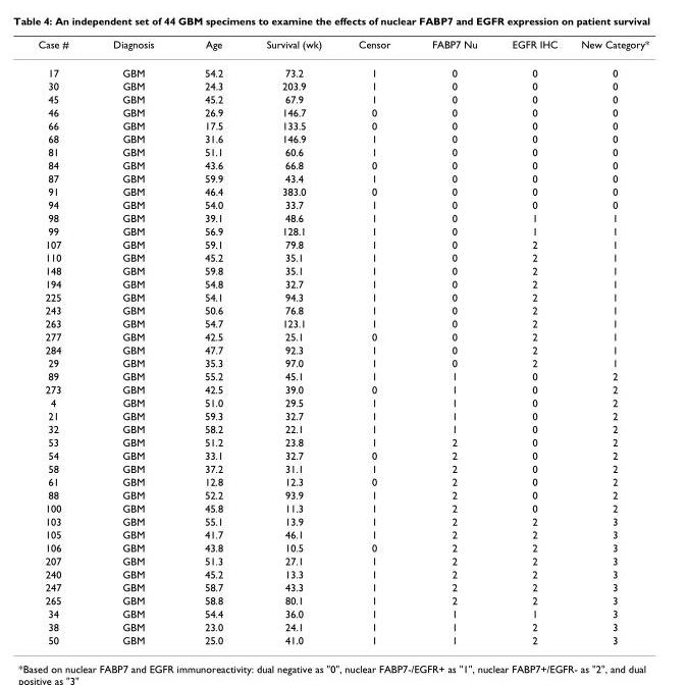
<table><thead><tr><td>Case #</td><td>Diagnosis</td><td>Age</td><td>Survival (wk)</td><td>Censor</td><td>FABP7 Nu</td><td>EGFR IHC</td><td>New Category*</td></tr></thead><tbody><tr><td>17</td><td>GBM</td><td>54.2</td><td>73.2</td><td>1</td><td>0</td><td>0</td><td>0</td></tr><tr><td>30</td><td>GBM</td><td>24.3</td><td>203.9</td><td>1</td><td>0</td><td>0</td><td>0</td></tr><tr><td>45</td><td>GBM</td><td>45.2</td><td>67.9</td><td>1</td><td>0</td><td>0</td><td>0</td></tr><tr><td>46</td><td>GBM</td><td>26.9</td><td>146.7</td><td>0</td><td>0</td><td>0</td><td>0</td></tr><tr><td>66</td><td>GBM</td><td>17.5</td><td>133.5</td><td>0</td><td>0</td><td>0</td><td>0</td></tr><tr><td>68</td><td>GBM</td><td>31.6</td><td>146.9</td><td>1</td><td>0</td><td>0</td><td>0</td></tr><tr><td>81</td><td>GBM</td><td>51.1</td><td>60.6</td><td>1</td><td>0</td><td>0</td><td>0</td></tr><tr><td>84</td><td>GBM</td><td>43.6</td><td>66.8</td><td>0</td><td>0</td><td>0</td><td>0</td></tr><tr><td>87</td><td>GBM</td><td>59.9</td><td>43.4</td><td>1</td><td>0</td><td>0</td><td>0</td></tr><tr><td>91</td><td>GBM</td><td>46.4</td><td>383.0</td><td>0</td><td>0</td><td>0</td><td>0</td></tr><tr><td>94</td><td>GBM</td><td>54.0</td><td>33.7</td><td>1</td><td>0</td><td>0</td><td>0</td></tr><tr><td>98</td><td>GBM</td><td>39.1</td><td>48.6</td><td>1</td><td>0</td><td>1</td><td>1</td></tr><tr><td>99</td><td>GBM</td><td>56.9</td><td>128.1</td><td>1</td><td>0</td><td>1</td><td>1</td></tr><tr><td>107</td><td>GBM</td><td>59.1</td><td>79.8</td><td>1</td><td>0</td><td>2</td><td>1</td></tr><tr><td>110</td><td>GBM</td><td>45.2</td><td>35.1</td><td>1</td><td>0</td><td>2</td><td>1</td></tr><tr><td>148</td><td>GBM</td><td>59.8</td><td>35.1</td><td>1</td><td>0</td><td>2</td><td>1</td></tr><tr><td>194</td><td>GBM</td><td>54.8</td><td>32.7</td><td>1</td><td>0</td><td>2</td><td>1</td></tr><tr><td>225</td><td>GBM</td><td>54.1</td><td>94.3</td><td>1</td><td>0</td><td>2</td><td>1</td></tr><tr><td>243</td><td>GBM</td><td>50.6</td><td>76.8</td><td>1</td><td>0</td><td>2</td><td>1</td></tr><tr><td>263</td><td>GBM</td><td>54.7</td><td>123.1</td><td>1</td><td>0</td><td>2</td><td>1</td></tr><tr><td>277</td><td>GBM</td><td>42.5</td><td>25.1</td><td>0</td><td>0</td><td>2</td><td>1</td></tr><tr><td>284</td><td>GBM</td><td>47.7</td><td>92.3</td><td>1</td><td>0</td><td>2</td><td>1</td></tr><tr><td>29</td><td>GBM</td><td>35.3</td><td>97.0</td><td>1</td><td>0</td><td>2</td><td>1</td></tr><tr><td>89</td><td>GBM</td><td>55.2</td><td>45.1</td><td>1</td><td>1</td><td>0</td><td>2</td></tr><tr><td>273</td><td>GBM</td><td>42.5</td><td>39.0</td><td>0</td><td>1</td><td>0</td><td>2</td></tr><tr><td>4</td><td>GBM</td><td>51.0</td><td>29.5</td><td>1</td><td>1</td><td>0</td><td>2</td></tr><tr><td>21</td><td>GBM</td><td>59.3</td><td>32.7</td><td>1</td><td>1</td><td>0</td><td>2</td></tr><tr><td>32</td><td>GBM</td><td>58.2</td><td>22.1</td><td>1</td><td>1</td><td>0</td><td>2</td></tr><tr><td>53</td><td>GBM</td><td>51.2</td><td>23.8</td><td>1</td><td>2</td><td>0</td><td>2</td></tr><tr><td>54</td><td>GBM</td><td>33.1</td><td>32.7</td><td>0</td><td>2</td><td>0</td><td>2</td></tr><tr><td>58</td><td>GBM</td><td>37.2</td><td>31.1</td><td>1</td><td>2</td><td>0</td><td>2</td></tr><tr><td>61</td><td>GBM</td><td>12.8</td><td>12.3</td><td>0</td><td>2</td><td>0</td><td>2</td></tr><tr><td>88</td><td>GBM</td><td>52.2</td><td>93.9</td><td>1</td><td>2</td><td>0</td><td>2</td></tr><tr><td>100</td><td>GBM</td><td>45.8</td><td>11.3</td><td>1</td><td>2</td><td>0</td><td>2</td></tr><tr><td>103</td><td>GBM</td><td>55.1</td><td>13.9</td><td>1</td><td>2</td><td>2</td><td>3</td></tr><tr><td>105</td><td>GBM</td><td>41.7</td><td>46.1</td><td>1</td><td>2</td><td>2</td><td>3</td></tr><tr><td>106</td><td>GBM</td><td>43.8</td><td>10.5</td><td>0</td><td>2</td><td>2</td><td>3</td></tr><tr><td>207</td><td>GBM</td><td>51.3</td><td>27.1</td><td>1</td><td>2</td><td>2</td><td>3</td></tr><tr><td>240</td><td>GBM</td><td>45.2</td><td>13.3</td><td>1</td><td>2</td><td>2</td><td>3</td></tr><tr><td>247</td><td>GBM</td><td>58.7</td><td>43.3</td><td>1</td><td>2</td><td>2</td><td>3</td></tr><tr><td>265</td><td>GBM</td><td>58.8</td><td>80.1</td><td>1</td><td>2</td><td>2</td><td>3</td></tr><tr><td>34</td><td>GBM</td><td>54.4</td><td>36.0</td><td>1</td><td>1</td><td>1</td><td>3</td></tr><tr><td>38</td><td>GBM</td><td>23.0</td><td>24.1</td><td>1</td><td>1</td><td>2</td><td>3</td></tr><tr><td>50</td><td>GBM</td><td>25.0</td><td>41.0</td><td>1</td><td>1</td><td>2</td><td>3</td></tr></tbody></table>